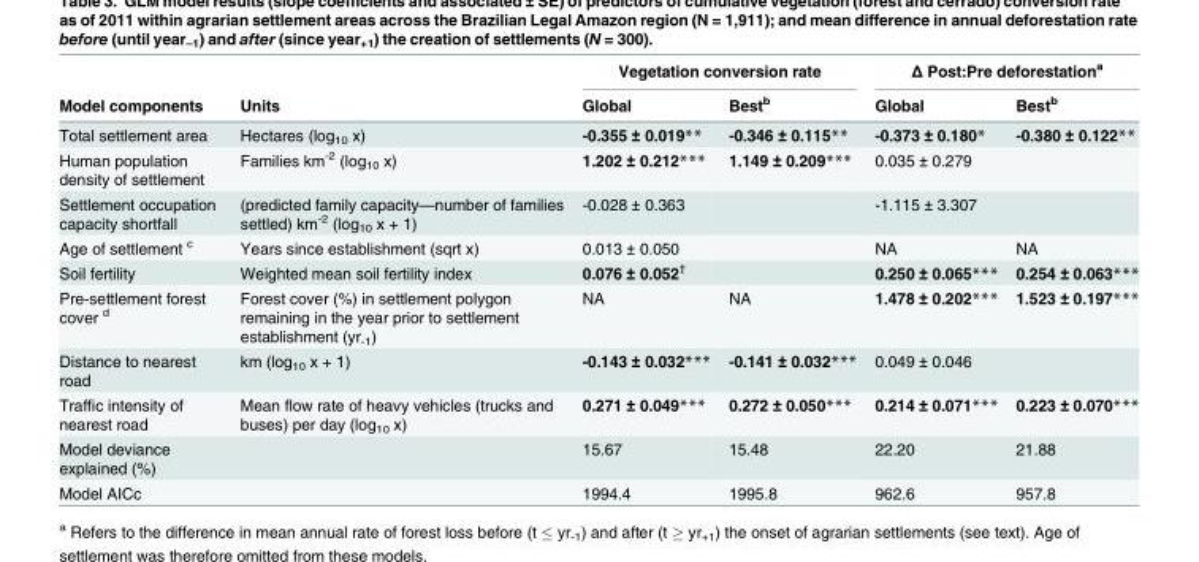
<table><thead><tr><td rowspan="2">Model components</td><td rowspan="2">Units</td><td colspan="2">Vegetation conversion rate</td><td colspan="2">Δ Post:Pre deforestation<sup>a</sup></td></tr><tr><td>Global</td><td>Best<sup>b</sup></td><td>Global</td><td>Best<sup>b</sup></td></tr></thead><tbody><tr><td>Total settlement area</td><td>Hectares (log<sub>10</sub> x)</td><td>-0.355 ± 0.019**</td><td>-0.346 ± 0.115**</td><td>-0.373 ± 0.180*</td><td>-0.380 ± 0.122**</td></tr><tr><td>Human population density of settlement</td><td>Families km<sup>-2</sup> (log<sub>10</sub> x)</td><td>1.202 ± 0.212***</td><td>1.149 ± 0.209***</td><td>0.035 ± 0.279</td><td></td></tr><tr><td>Settlement occupation capacity shortfall</td><td>(predicted family capacity—number of families settled) km<sup>-2</sup> (log<sub>10</sub> x + 1)</td><td>-0.028 ± 0.363</td><td></td><td>-1.115 ± 3.307</td><td></td></tr><tr><td>Age of settlement <sup>c</sup></td><td>Years since establishment (sqrt x)</td><td>0.013 ± 0.050</td><td></td><td>NA</td><td>NA</td></tr><tr><td>Soil fertility</td><td>Weighted mean soil fertility index</td><td>0.076 ± 0.052<sup>†</sup></td><td></td><td>0.250 ± 0.065***</td><td>0.254 ± 0.063***</td></tr><tr><td>Pre-settlement forest cover <sup>d</sup></td><td>Forest cover (%) in settlement polygon remaining in the year prior to settlement establishment (yr<sub>-1</sub>)</td><td>NA</td><td>NA</td><td>1.478 ± 0.202***</td><td>1.523 ± 0.197***</td></tr><tr><td>Distance to nearest road</td><td>km (log<sub>10</sub> x + 1)</td><td>-0.143 ± 0.032***</td><td>-0.141 ± 0.032***</td><td>0.049 ± 0.046</td><td></td></tr><tr><td>Traffic intensity of nearest road</td><td>Mean flow rate of heavy vehicles (trucks and buses) per day (log<sub>10</sub> x)</td><td>0.271 ± 0.049***</td><td>0.272 ± 0.050***</td><td>0.214 ± 0.071***</td><td>0.223 ± 0.070***</td></tr><tr><td>Model deviance explained (%)</td><td></td><td>15.67</td><td>15.48</td><td>22.20</td><td>21.88</td></tr><tr><td>Model AICc</td><td></td><td>1994.4</td><td>1995.8</td><td>962.6</td><td>957.8</td></tr></tbody></table>